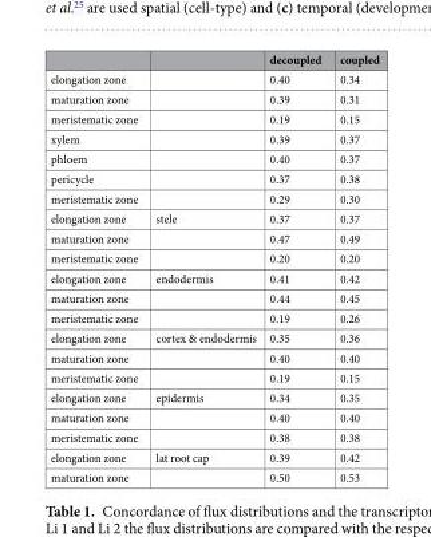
<table><thead><tr><td></td><td></td><td>decoupled</td><td>coupled</td></tr></thead><tbody><tr><td>elongation zone</td><td></td><td>0.40</td><td>0.34</td></tr><tr><td>maturation zone</td><td></td><td>0.39</td><td>0.31</td></tr><tr><td>meristematic zone</td><td></td><td>0.19</td><td>0.15</td></tr><tr><td>xylem</td><td></td><td>0.39</td><td>0.37</td></tr><tr><td>phloem</td><td></td><td>0.40</td><td>0.37</td></tr><tr><td>pericycle</td><td></td><td>0.37</td><td>0.38</td></tr><tr><td>meristematic zone</td><td></td><td>0.29</td><td>0.30</td></tr><tr><td>elongation zone</td><td>stele</td><td>0.37</td><td>0.37</td></tr><tr><td>maturation zone</td><td></td><td>0.47</td><td>0.49</td></tr><tr><td>meristematic zone</td><td></td><td>0.20</td><td>0.20</td></tr><tr><td>elongation zone</td><td>endodermis</td><td>0.41</td><td>0.42</td></tr><tr><td>maturation zone</td><td></td><td>0.44</td><td>0.45</td></tr><tr><td>meristematic zone</td><td></td><td>0.19</td><td>0.26</td></tr><tr><td>elongation zone</td><td>cortex &amp; endodermis</td><td>0.35</td><td>0.36</td></tr><tr><td>maturation zone</td><td></td><td>0.40</td><td>0.40</td></tr><tr><td>meristematic zone</td><td></td><td>0.19</td><td>0.15</td></tr><tr><td>elongation zone</td><td>epidermis</td><td>0.34</td><td>0.35</td></tr><tr><td>maturation zone</td><td></td><td>0.40</td><td>0.40</td></tr><tr><td>meristematic zone</td><td></td><td>0.38</td><td>0.38</td></tr><tr><td>elongation zone</td><td>lat root cap</td><td>0.39</td><td>0.42</td></tr><tr><td>maturation zone</td><td></td><td>0.50</td><td>0.53</td></tr></tbody></table>